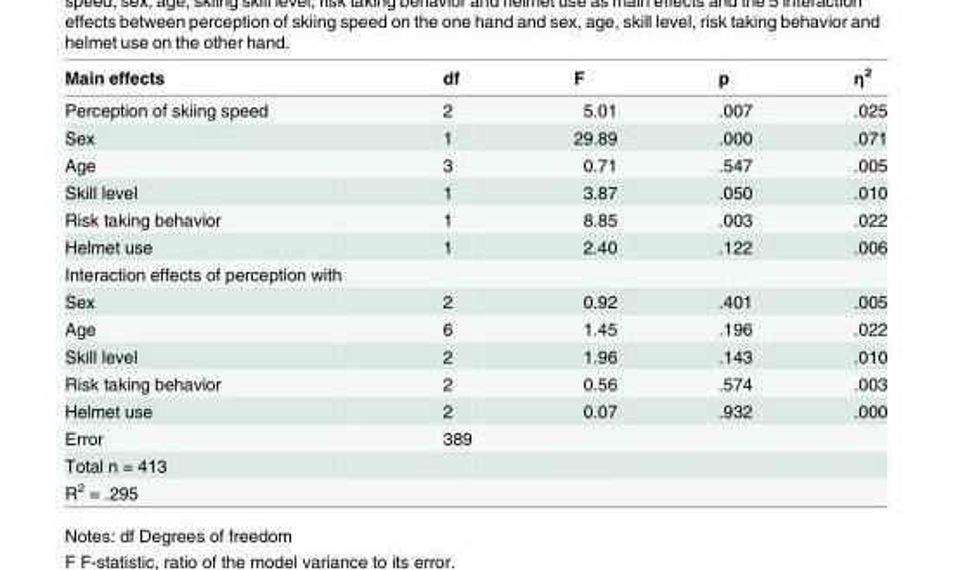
<table><thead><tr><td>Main effects</td><td>df</td><td>F</td><td>p</td><td>η<sup>2</sup></td></tr></thead><tbody><tr><td>Perception of skiing speed</td><td>2</td><td>5.01</td><td>.007</td><td>.025</td></tr><tr><td>Sex</td><td>1</td><td>29.89</td><td>.000</td><td>.071</td></tr><tr><td>Age</td><td>3</td><td>0.71</td><td>.547</td><td>.005</td></tr><tr><td>Skill level</td><td>1</td><td>3.87</td><td>.050</td><td>.010</td></tr><tr><td>Risk taking behavior</td><td>1</td><td>8.85</td><td>.003</td><td>.022</td></tr><tr><td>Helmet use</td><td>1</td><td>2.40</td><td>.122</td><td>.006</td></tr><tr><td colspan="5">Interaction effects of perception with</td></tr><tr><td>Sex</td><td>2</td><td>0.92</td><td>.401</td><td>.005</td></tr><tr><td>Age</td><td>6</td><td>1.45</td><td>.196</td><td>.022</td></tr><tr><td>Skill level</td><td>2</td><td>1.96</td><td>.143</td><td>.010</td></tr><tr><td>Risk taking behavior</td><td>2</td><td>0.56</td><td>.574</td><td>.003</td></tr><tr><td>Helmet use</td><td>2</td><td>0.07</td><td>.932</td><td>.000</td></tr><tr><td>Error</td><td>389</td><td></td><td></td><td></td></tr><tr><td colspan="5">Total n = 413</td></tr><tr><td>R<sup>2</sup> = .295</td><td></td><td></td><td></td><td></td></tr></tbody></table>